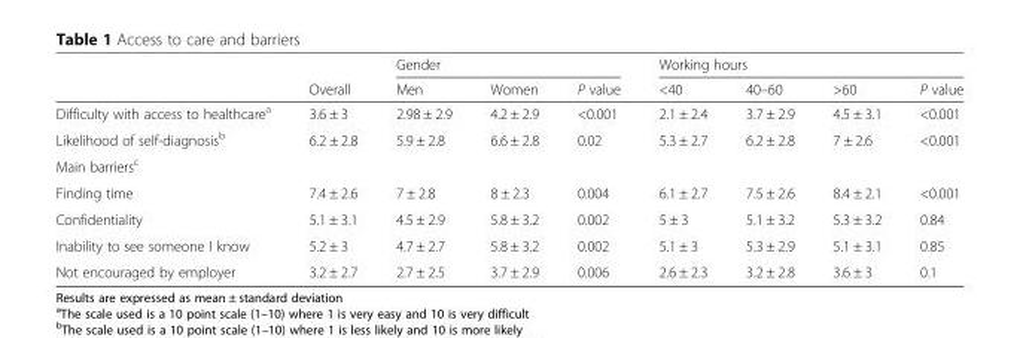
<table><thead><tr><td rowspan="2"></td><td rowspan="2">Overall</td><td colspan="3">Gender</td><td colspan="4">Working hours</td></tr><tr><td>Men</td><td>Women</td><td>P value</td><td>&lt;40</td><td>40–60</td><td>&gt;60</td><td>P value</td></tr></thead><tbody><tr><td>Difficulty with access to healthcare<sup>a</sup></td><td>3.6 ± 3</td><td>2.98 ± 2.9</td><td>4.2 ± 2.9</td><td>&lt;0.001</td><td>2.1 ± 2.4</td><td>3.7 ± 2.9</td><td>4.5 ± 3.1</td><td>&lt;0.001</td></tr><tr><td>Likelihood of self-diagnosis<sup>b</sup></td><td>6.2 ± 2.8</td><td>5.9 ± 2.8</td><td>6.6 ± 2.8</td><td>0.02</td><td>5.3 ± 2.7</td><td>6.2 ± 2.8</td><td>7 ± 2.6</td><td>&lt;0.001</td></tr><tr><td colspan="9">Main barriers<sup>c</sup></td></tr><tr><td>Finding time</td><td>7.4 ± 2.6</td><td>7 ± 2.8</td><td>8 ± 2.3</td><td>0.004</td><td>6.1 ± 2.7</td><td>7.5 ± 2.6</td><td>8.4 ± 2.1</td><td>&lt;0.001</td></tr><tr><td>Confidentiality</td><td>5.1 ± 3.1</td><td>4.5 ± 2.9</td><td>5.8 ± 3.2</td><td>0.002</td><td>5 ± 3</td><td>5.1 ± 3.2</td><td>5.3 ± 3.2</td><td>0.84</td></tr><tr><td>Inability to see someone I know</td><td>5.2 ± 3</td><td>4.7 ± 2.7</td><td>5.8 ± 3.2</td><td>0.002</td><td>5.1 ± 3</td><td>5.3 ± 2.9</td><td>5.1 ± 3.1</td><td>0.85</td></tr><tr><td>Not encouraged by employer</td><td>3.2 ± 2.7</td><td>2.7 ± 2.5</td><td>3.7 ± 2.9</td><td>0.006</td><td>2.6 ± 2.3</td><td>3.2 ± 2.8</td><td>3.6 ± 3</td><td>0.1</td></tr></tbody></table>